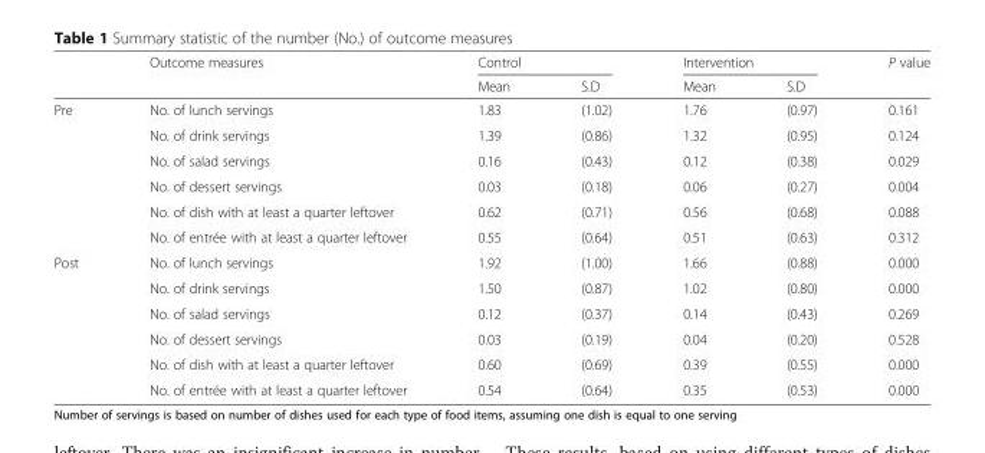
<table><thead><tr><td rowspan="2"></td><td rowspan="2">Outcome measures</td><td colspan="2">Control</td><td colspan="2">Intervention</td><td rowspan="2">P value</td></tr><tr><td>Mean</td><td>S.D</td><td>Mean</td><td>S.D</td></tr></thead><tbody><tr><td rowspan="6">Pre</td><td>No. of lunch servings</td><td>1.83</td><td>(1.02)</td><td>1.76</td><td>(0.97)</td><td>0.161</td></tr><tr><td>No. of drink servings</td><td>1.39</td><td>(0.86)</td><td>1.32</td><td>(0.95)</td><td>0.124</td></tr><tr><td>No. of salad servings</td><td>0.16</td><td>(0.43)</td><td>0.12</td><td>(0.38)</td><td>0.029</td></tr><tr><td>No. of dessert servings</td><td>0.03</td><td>(0.18)</td><td>0.06</td><td>(0.27)</td><td>0.004</td></tr><tr><td>No. of dish with at least a quarter leftover</td><td>0.62</td><td>(0.71)</td><td>0.56</td><td>(0.68)</td><td>0.088</td></tr><tr><td>No. of entrée with at least a quarter leftover</td><td>0.55</td><td>(0.64)</td><td>0.51</td><td>(0.63)</td><td>0.312</td></tr><tr><td rowspan="6">Post</td><td>No. of lunch servings</td><td>1.92</td><td>(1.00)</td><td>1.66</td><td>(0.88)</td><td>0.000</td></tr><tr><td>No. of drink servings</td><td>1.50</td><td>(0.87)</td><td>1.02</td><td>(0.80)</td><td>0.000</td></tr><tr><td>No. of salad servings</td><td>0.12</td><td>(0.37)</td><td>0.14</td><td>(0.43)</td><td>0.269</td></tr><tr><td>No. of dessert servings</td><td>0.03</td><td>(0.19)</td><td>0.04</td><td>(0.20)</td><td>0.528</td></tr><tr><td>No. of dish with at least a quarter leftover</td><td>0.60</td><td>(0.69)</td><td>0.39</td><td>(0.55)</td><td>0.000</td></tr><tr><td>No. of entrée with at least a quarter leftover</td><td>0.54</td><td>(0.64)</td><td>0.35</td><td>(0.53)</td><td>0.000</td></tr></tbody></table>